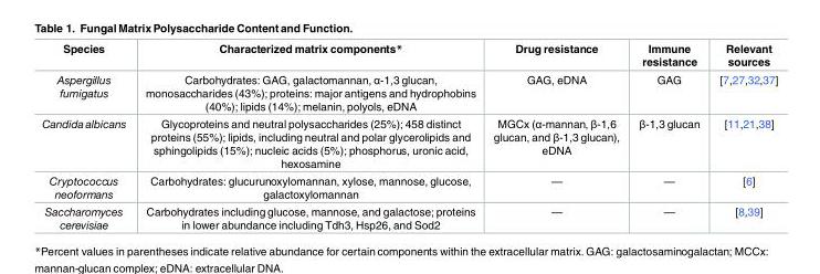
<table><thead><tr><td>Species</td><td>Characterized matrix components*</td><td>Drug resistance</td><td>Immune resistance</td><td>Relevant sources</td></tr></thead><tbody><tr><td>Aspergillus fumigatus</td><td>Carbohydrates: GAG, galactomannan, α-1,3 glucan, monosaccharides (43%); proteins: major antigens and hydrophobins (40%); lipids (14%); melanin, polyols, eDNA</td><td>GAG, eDNA</td><td>GAG</td><td>[7,27,32,37]</td></tr><tr><td>Candida albicans</td><td>Glycoproteins and neutral polysaccharides (25%); 458 distinct proteins (55%); lipids, including neutral and polar glycerolipids and sphingolipids (15%); nucleic acids (5%); phosphorus, uronic acid, hexosamine</td><td>MGCx (α-mannan, β-1,6 glucan, and β-1,3 glucan), eDNA</td><td>β-1,3 glucan</td><td>[11,21,38]</td></tr><tr><td>Cryptococcus neoformans</td><td>Carbohydrates: glucurunoxylomannan, xylose, mannose, glucose, galactoxylomannan</td><td>—</td><td>—</td><td>[6]</td></tr><tr><td>Saccharomyces cerevisiae</td><td>Carbohydrates including glucose, mannose, and galactose; proteins in lower abundance including Tdh3, Hsp26, and Sod2</td><td>—</td><td>—</td><td>[8,39]</td></tr></tbody></table>